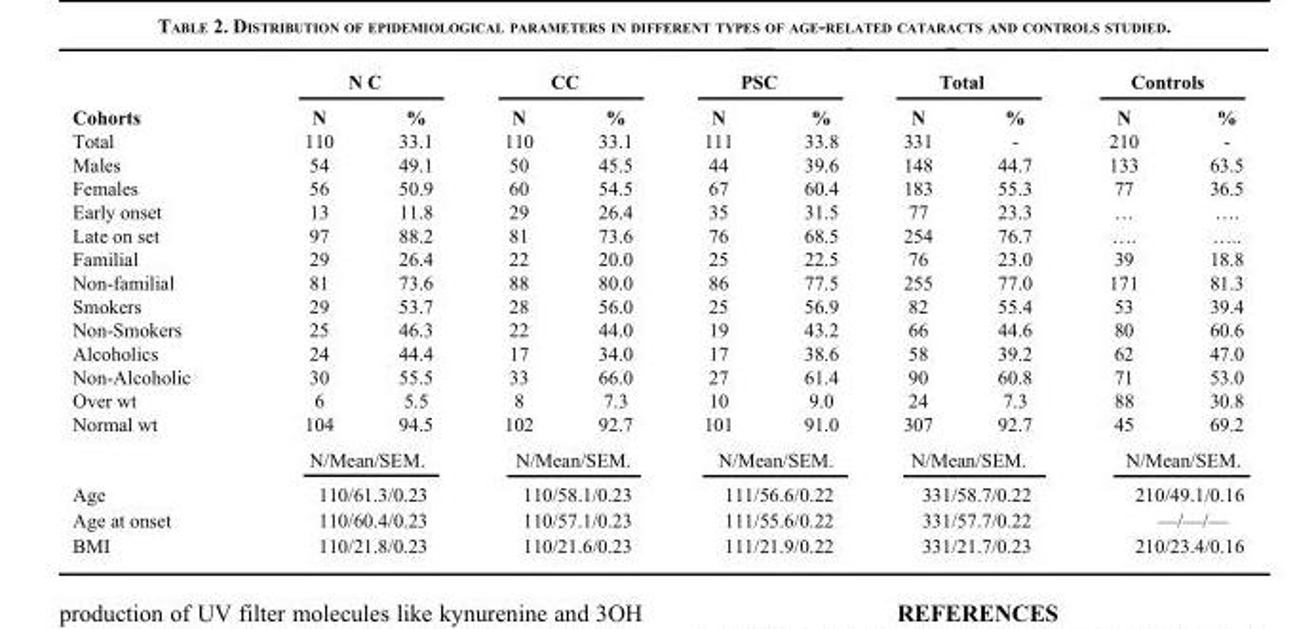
<table><thead><tr><td rowspan="2">Cohorts</td><td colspan="2">N C</td><td colspan="2">CC</td><td colspan="2">PSC</td><td colspan="2">Total</td><td colspan="2">Controls</td></tr><tr><td>N</td><td>%</td><td>N</td><td>%</td><td>N</td><td>%</td><td>N</td><td>%</td><td>N</td><td>%</td></tr></thead><tbody><tr><td>Total</td><td>110</td><td>33.1</td><td>110</td><td>33.1</td><td>111</td><td>33.8</td><td>331</td><td>-</td><td>210</td><td>-</td></tr><tr><td>Males</td><td>54</td><td>49.1</td><td>50</td><td>45.5</td><td>44</td><td>39.6</td><td>148</td><td>44.7</td><td>133</td><td>63.5</td></tr><tr><td>Females</td><td>56</td><td>50.9</td><td>60</td><td>54.5</td><td>67</td><td>60.4</td><td>183</td><td>55.3</td><td>77</td><td>36.5</td></tr><tr><td>Early onset</td><td>13</td><td>11.8</td><td>29</td><td>26.4</td><td>35</td><td>31.5</td><td>77</td><td>23.3</td><td>…</td><td>….</td></tr><tr><td>Late on set</td><td>97</td><td>88.2</td><td>81</td><td>73.6</td><td>76</td><td>68.5</td><td>254</td><td>76.7</td><td>….</td><td>…..</td></tr><tr><td>Familial</td><td>29</td><td>26.4</td><td>22</td><td>20.0</td><td>25</td><td>22.5</td><td>76</td><td>23.0</td><td>39</td><td>18.8</td></tr><tr><td>Non-familial</td><td>81</td><td>73.6</td><td>88</td><td>80.0</td><td>86</td><td>77.5</td><td>255</td><td>77.0</td><td>171</td><td>81.3</td></tr><tr><td>Smokers</td><td>29</td><td>53.7</td><td>28</td><td>56.0</td><td>25</td><td>56.9</td><td>82</td><td>55.4</td><td>53</td><td>39.4</td></tr><tr><td>Non-Smokers</td><td>25</td><td>46.3</td><td>22</td><td>44.0</td><td>19</td><td>43.2</td><td>66</td><td>44.6</td><td>80</td><td>60.6</td></tr><tr><td>Alcoholics</td><td>24</td><td>44.4</td><td>17</td><td>34.0</td><td>17</td><td>38.6</td><td>58</td><td>39.2</td><td>62</td><td>47.0</td></tr><tr><td>Non-Alcoholic</td><td>30</td><td>55.5</td><td>33</td><td>66.0</td><td>27</td><td>61.4</td><td>90</td><td>60.8</td><td>71</td><td>53.0</td></tr><tr><td>Over wt</td><td>6</td><td>5.5</td><td>8</td><td>7.3</td><td>10</td><td>9.0</td><td>24</td><td>7.3</td><td>88</td><td>30.8</td></tr><tr><td rowspan="2">Normal wt</td><td>104</td><td>94.5</td><td>102</td><td>92.7</td><td>101</td><td>91.0</td><td>307</td><td>92.7</td><td>45</td><td>69.2</td></tr><tr><td colspan="2">N/Mean/SEM.</td><td colspan="2">N/Mean/SEM.</td><td colspan="2">N/Mean/SEM.</td><td colspan="2">N/Mean/SEM.</td><td colspan="2">N/Mean/SEM.</td></tr><tr><td>Age</td><td colspan="2">110/61.3/0.23</td><td colspan="2">110/58.1/0.23</td><td colspan="2">111/56.6/0.22</td><td colspan="2">331/58.7/0.22</td><td colspan="2">210/49.1/0.16</td></tr><tr><td>Age at onset</td><td colspan="2">110/60.4/0.23</td><td colspan="2">110/57.1/0.23</td><td colspan="2">111/55.6/0.22</td><td colspan="2">331/57.7/0.22</td><td colspan="2">—/—/—</td></tr><tr><td>BMI</td><td colspan="2">110/21.8/0.23</td><td colspan="2">110/21.6/0.23</td><td colspan="2">111/21.9/0.22</td><td colspan="2">331/21.7/0.23</td><td colspan="2">210/23.4/0.16</td></tr></tbody></table>